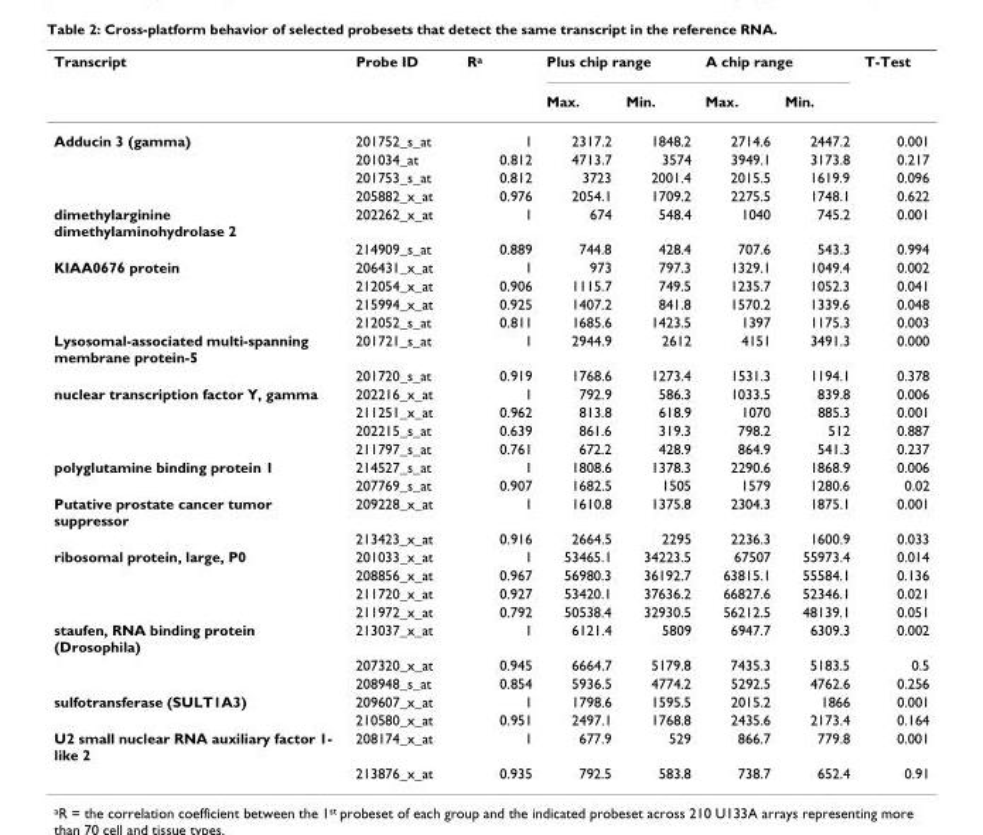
<table><thead><tr><td rowspan="2">Transcript</td><td rowspan="2">Probe ID</td><td rowspan="2">Ra</td><td colspan="2">Plus chip range</td><td colspan="2">A chip range</td><td rowspan="2">T-Test</td></tr><tr><td>Max.</td><td>Min.</td><td>Max.</td><td>Min.</td></tr></thead><tbody><tr><td rowspan="4">Adducin 3 (gamma)</td><td>201752_s_at</td><td>1</td><td>2317.2</td><td>1848.2</td><td>2714.6</td><td>2447.2</td><td>0.001</td></tr><tr><td>201034_at</td><td>0.812</td><td>4713.7</td><td>3574</td><td>3949.1</td><td>3173.8</td><td>0.217</td></tr><tr><td>201753_s_at</td><td>0.812</td><td>3723</td><td>2001.4</td><td>2015.5</td><td>1619.9</td><td>0.096</td></tr><tr><td>205882_x_at</td><td>0.976</td><td>2054.1</td><td>1709.2</td><td>2275.5</td><td>1748.1</td><td>0.622</td></tr><tr><td rowspan="2">dimethylarginine dimethylaminohydrolase 2</td><td>202262_x_at</td><td>1</td><td>674</td><td>548.4</td><td>1040</td><td>745.2</td><td>0.001</td></tr><tr><td>214909_s_at</td><td>0.889</td><td>744.8</td><td>428.4</td><td>707.6</td><td>543.3</td><td>0.994</td></tr><tr><td rowspan="4">KIAA0676 protein</td><td>206431_x_at</td><td>1</td><td>973</td><td>797.3</td><td>1329.1</td><td>1049.4</td><td>0.002</td></tr><tr><td>212054_x_at</td><td>0.906</td><td>1115.7</td><td>749.5</td><td>1235.7</td><td>1052.3</td><td>0.041</td></tr><tr><td>215994_x_at</td><td>0.925</td><td>1407.2</td><td>841.8</td><td>1570.2</td><td>1339.6</td><td>0.048</td></tr><tr><td>212052_s_at</td><td>0.811</td><td>1685.6</td><td>1423.5</td><td>1397</td><td>1175.3</td><td>0.003</td></tr><tr><td rowspan="2">Lysosomal-associated multi-spanning membrane protein-5</td><td>201721_s_at</td><td>1</td><td>2944.9</td><td>2612</td><td>4151</td><td>3491.3</td><td>0.000</td></tr><tr><td>201720_s_at</td><td>0.919</td><td>1768.6</td><td>1273.4</td><td>1531.3</td><td>1194.1</td><td>0.378</td></tr><tr><td rowspan="4">nuclear transcription factor Y, gamma</td><td>202216_x_at</td><td>1</td><td>792.9</td><td>586.3</td><td>1033.5</td><td>839.8</td><td>0.006</td></tr><tr><td>211251_x_at</td><td>0.962</td><td>813.8</td><td>618.9</td><td>1070</td><td>885.3</td><td>0.001</td></tr><tr><td>202215_s_at</td><td>0.639</td><td>861.6</td><td>319.3</td><td>798.2</td><td>512</td><td>0.887</td></tr><tr><td>211797_s_at</td><td>0.761</td><td>672.2</td><td>428.9</td><td>864.9</td><td>541.3</td><td>0.237</td></tr><tr><td rowspan="2">polyglutamine binding protein 1</td><td>214527_s_at</td><td>1</td><td>1808.6</td><td>1378.3</td><td>2290.6</td><td>1868.9</td><td>0.006</td></tr><tr><td>207769_s_at</td><td>0.907</td><td>1682.5</td><td>1505</td><td>1579</td><td>1280.6</td><td>0.02</td></tr><tr><td rowspan="2">Putative prostate cancer tumor suppressor</td><td>209228_x_at</td><td>1</td><td>1610.8</td><td>1375.8</td><td>2304.3</td><td>1875.1</td><td>0.001</td></tr><tr><td>213423_x_at</td><td>0.916</td><td>2664.5</td><td>2295</td><td>2236.3</td><td>1600.9</td><td>0.033</td></tr><tr><td rowspan="4">ribosomal protein, large, P0</td><td>201033_x_at</td><td>1</td><td>53465.1</td><td>34223.5</td><td>67507</td><td>55973.4</td><td>0.014</td></tr><tr><td>208856_x_at</td><td>0.967</td><td>56980.3</td><td>36192.7</td><td>63815.1</td><td>55584.1</td><td>0.136</td></tr><tr><td>211720_x_at</td><td>0.927</td><td>53420.1</td><td>37636.2</td><td>66827.6</td><td>52346.1</td><td>0.021</td></tr><tr><td>211972_x_at</td><td>0.792</td><td>50538.4</td><td>32930.5</td><td>56212.5</td><td>48139.1</td><td>0.051</td></tr><tr><td rowspan="3">staufen, RNA binding protein (Drosophila)</td><td>213037_x_at</td><td>1</td><td>6121.4</td><td>5809</td><td>6947.7</td><td>6309.3</td><td>0.002</td></tr><tr><td>207320_x_at</td><td>0.945</td><td>6664.7</td><td>5179.8</td><td>7435.3</td><td>5183.5</td><td>0.5</td></tr><tr><td>208948_s_at</td><td>0.854</td><td>5936.5</td><td>4774.2</td><td>5292.5</td><td>4762.6</td><td>0.256</td></tr><tr><td rowspan="2">sulfotransferase (SULT1A3)</td><td>209607_x_at</td><td>1</td><td>1798.6</td><td>1595.5</td><td>2015.2</td><td>1866</td><td>0.001</td></tr><tr><td>210580_x_at</td><td>0.951</td><td>2497.1</td><td>1768.8</td><td>2435.6</td><td>2173.4</td><td>0.164</td></tr><tr><td rowspan="2">U2 small nuclear RNA auxiliary factor 1- like 2</td><td>208174_x_at</td><td>1</td><td>677.9</td><td>529</td><td>866.7</td><td>779.8</td><td>0.001</td></tr><tr><td>213876_x_at</td><td>0.935</td><td>792.5</td><td>583.8</td><td>738.7</td><td>652.4</td><td>0.91</td></tr></tbody></table>